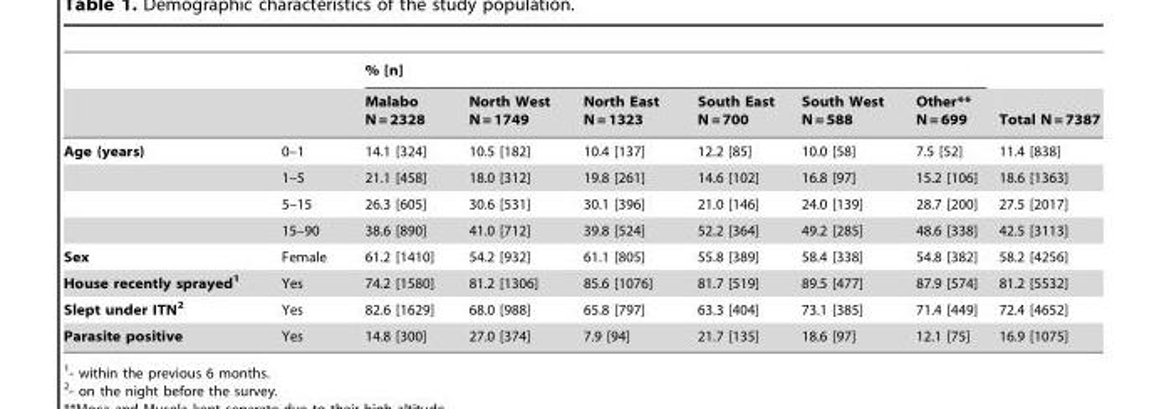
<table><thead><tr><td rowspan="2"></td><td rowspan="2"></td><td colspan="6">% [n]</td><td rowspan="2">Total N = 7387</td></tr><tr><td>Malabo N = 2328</td><td>North West N = 1749</td><td>North East N = 1323</td><td>South East N = 700</td><td>South West N = 588</td><td>Other** N = 699</td></tr></thead><tbody><tr><td rowspan="4">Age (years)</td><td>0–1</td><td>14.1 [324]</td><td>10.5 [182]</td><td>10.4 [137]</td><td>12.2 [85]</td><td>10.0 [58]</td><td>7.5 [52]</td><td>11.4 [838]</td></tr><tr><td>1–5</td><td>21.1 [458]</td><td>18.0 [312]</td><td>19.8 [261]</td><td>14.6 [102]</td><td>16.8 [97]</td><td>15.2 [106]</td><td>18.6 [1363]</td></tr><tr><td>5–15</td><td>26.3 [605]</td><td>30.6 [531]</td><td>30.1 [396]</td><td>21.0 [146]</td><td>24.0 [139]</td><td>28.7 [200]</td><td>27.5 [2017]</td></tr><tr><td>15–90</td><td>38.6 [890]</td><td>41.0 [712]</td><td>39.8 [524]</td><td>52.2 [364]</td><td>49.2 [285]</td><td>48.6 [338]</td><td>42.5 [3113]</td></tr><tr><td>Sex</td><td>Female</td><td>61.2 [1410]</td><td>54.2 [932]</td><td>61.1 [805]</td><td>55.8 [389]</td><td>58.4 [338]</td><td>54.8 [382]</td><td>58.2 [4256]</td></tr><tr><td>House recently sprayed1</td><td>Yes</td><td>74.2 [1580]</td><td>81.2 [1306]</td><td>85.6 [1076]</td><td>81.7 [519]</td><td>89.5 [477]</td><td>87.9 [574]</td><td>81.2 [5532]</td></tr><tr><td>Slept under ITN2</td><td>Yes</td><td>82.6 [1629]</td><td>68.0 [988]</td><td>65.8 [797]</td><td>63.3 [404]</td><td>73.1 [385]</td><td>71.4 [449]</td><td>72.4 [4652]</td></tr><tr><td>Parasite positive</td><td>Yes</td><td>14.8 [300]</td><td>27.0 [374]</td><td>7.9 [94]</td><td>21.7 [135]</td><td>18.6 [97]</td><td>12.1 [75]</td><td>16.9 [1075]</td></tr></tbody></table>